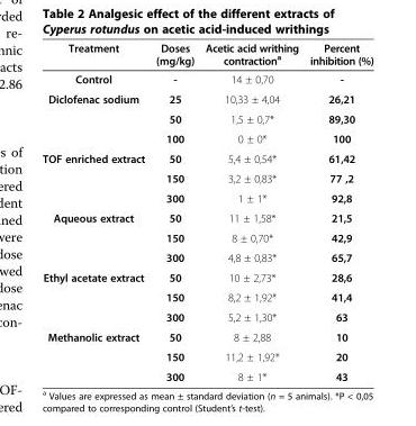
<table><thead><tr><td>Treatment</td><td>Doses (mg/kg)</td><td>Acetic acid writhing contraction<sup>a</sup></td><td>Percent inhibition (%)</td></tr></thead><tbody><tr><td>Control</td><td>-</td><td>14 ± 0,70</td><td>-</td></tr><tr><td rowspan="3">Diclofenac sodium</td><td>25</td><td>10,33 ± 4,04</td><td>26,21</td></tr><tr><td>50</td><td>1,5 ± 0,7*</td><td>89,30</td></tr><tr><td>100</td><td>0 ± 0*</td><td>100</td></tr><tr><td rowspan="3">TOF enriched extract</td><td>50</td><td>5,4 ± 0,54*</td><td>61,42</td></tr><tr><td>150</td><td>3,2 ± 0,83*</td><td>77 ,2</td></tr><tr><td>300</td><td>1 ± 1*</td><td>92,8</td></tr><tr><td rowspan="3">Aqueous extract</td><td>50</td><td>11 ± 1,58*</td><td>21,5</td></tr><tr><td>150</td><td>8 ± 0,70*</td><td>42,9</td></tr><tr><td>300</td><td>4,8 ± 0,83*</td><td>65,7</td></tr><tr><td rowspan="3">Ethyl acetate extract</td><td>50</td><td>10 ± 2,73*</td><td>28,6</td></tr><tr><td>150</td><td>8,2 ± 1,92*</td><td>41,4</td></tr><tr><td>300</td><td>5,2 ± 1,30*</td><td>63</td></tr><tr><td rowspan="3">Methanolic extract</td><td>50</td><td>8 ± 2,88</td><td>10</td></tr><tr><td>150</td><td>11,2 ± 1,92*</td><td>20</td></tr><tr><td>300</td><td>8 ± 1*</td><td>43</td></tr></tbody></table>